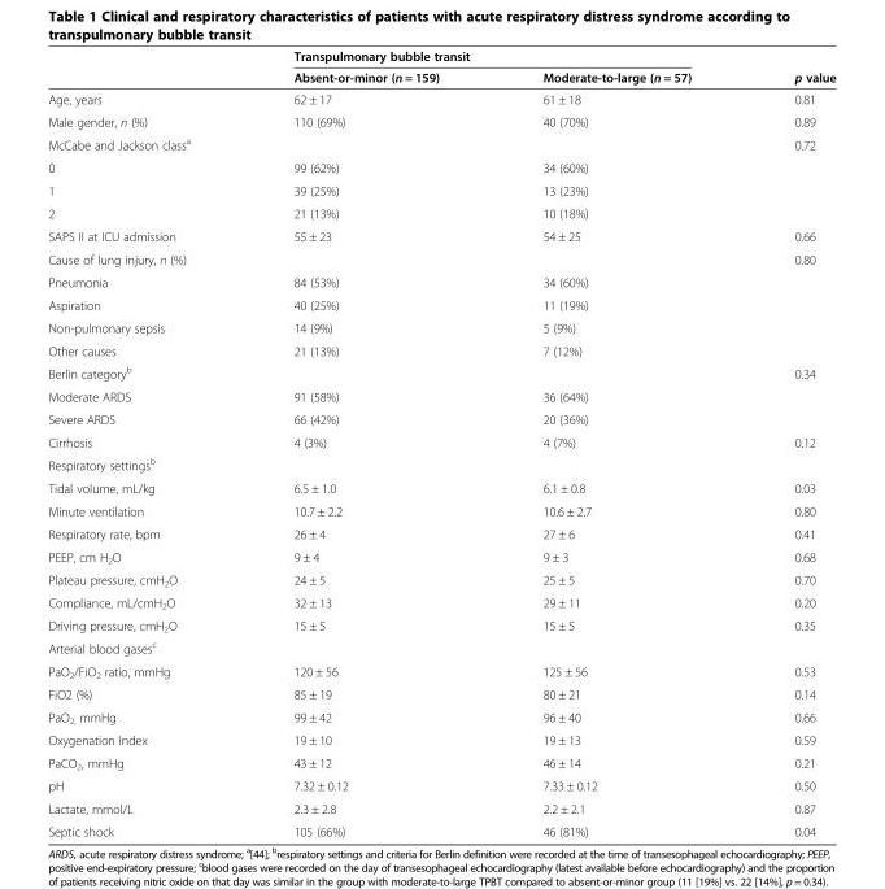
<table><thead><tr><td rowspan="2"></td><td colspan="2">Transpulmonary bubble transit</td><td rowspan="2">p value</td></tr><tr><td>Absent-or-minor (n = 159)</td><td>Moderate-to-large (n = 57)</td></tr></thead><tbody><tr><td>Age, years</td><td>62 ± 17</td><td>61 ± 18</td><td>0.81</td></tr><tr><td>Male gender, n (%)</td><td>110 (69%)</td><td>40 (70%)</td><td>0.89</td></tr><tr><td>McCabe and Jackson class<sup>a</sup></td><td></td><td></td><td>0.72</td></tr><tr><td>0</td><td>99 (62%)</td><td>34 (60%)</td><td></td></tr><tr><td>1</td><td>39 (25%)</td><td>13 (23%)</td><td></td></tr><tr><td>2</td><td>21 (13%)</td><td>10 (18%)</td><td></td></tr><tr><td>SAPS II at ICU admission</td><td>55 ± 23</td><td>54 ± 25</td><td>0.66</td></tr><tr><td>Cause of lung injury, n (%)</td><td></td><td></td><td>0.80</td></tr><tr><td>Pneumonia</td><td>84 (53%)</td><td>34 (60%)</td><td></td></tr><tr><td>Aspiration</td><td>40 (25%)</td><td>11 (19%)</td><td></td></tr><tr><td>Non-pulmonary sepsis</td><td>14 (9%)</td><td>5 (9%)</td><td></td></tr><tr><td>Other causes</td><td>21 (13%)</td><td>7 (12%)</td><td></td></tr><tr><td>Berlin category<sup>b</sup></td><td></td><td></td><td>0.34</td></tr><tr><td>Moderate ARDS</td><td>91 (58%)</td><td>36 (64%)</td><td></td></tr><tr><td>Severe ARDS</td><td>66 (42%)</td><td>20 (36%)</td><td></td></tr><tr><td>Cirrhosis</td><td>4 (3%)</td><td>4 (7%)</td><td>0.12</td></tr><tr><td colspan="4">Respiratory settings<sup>b</sup></td></tr><tr><td>Tidal volume, mL/kg</td><td>6.5 ± 1.0</td><td>6.1 ± 0.8</td><td>0.03</td></tr><tr><td>Minute ventilation</td><td>10.7 ± 2.2</td><td>10.6 ± 2.7</td><td>0.80</td></tr><tr><td>Respiratory rate, bpm</td><td>26 ± 4</td><td>27 ± 6</td><td>0.41</td></tr><tr><td>PEEP, cm H<sub>2</sub>O</td><td>9 ± 4</td><td>9 ± 3</td><td>0.68</td></tr><tr><td>Plateau pressure, cmH<sub>2</sub>O</td><td>24 ± 5</td><td>25 ± 5</td><td>0.70</td></tr><tr><td>Compliance, mL/cmH<sub>2</sub>O</td><td>32 ± 13</td><td>29 ± 11</td><td>0.20</td></tr><tr><td>Driving pressure, cmH<sub>2</sub>O</td><td>15 ± 5</td><td>15 ± 5</td><td>0.35</td></tr><tr><td colspan="4">Arterial blood gases<sup>c</sup></td></tr><tr><td>PaO<sub>2</sub>/FiO<sub>2</sub> ratio, mmHg</td><td>120 ± 56</td><td>125 ± 56</td><td>0.53</td></tr><tr><td>FiO2 (%)</td><td>85 ± 19</td><td>80 ± 21</td><td>0.14</td></tr><tr><td>PaO<sub>2,</sub> mmHg</td><td>99 ± 42</td><td>96 ± 40</td><td>0.66</td></tr><tr><td>Oxygenation Index</td><td>19 ± 10</td><td>19 ± 13</td><td>0.59</td></tr><tr><td>PaCO<sub>2</sub>, mmHg</td><td>43 ± 12</td><td>46 ± 14</td><td>0.21</td></tr><tr><td>pH</td><td>7.32 ± 0.12</td><td>7.33 ± 0.12</td><td>0.50</td></tr><tr><td>Lactate, mmol/L</td><td>2.3 ± 2.8</td><td>2.2 ± 2.1</td><td>0.87</td></tr><tr><td>Septic shock</td><td>105 (66%)</td><td>46 (81%)</td><td>0.04</td></tr></tbody></table>